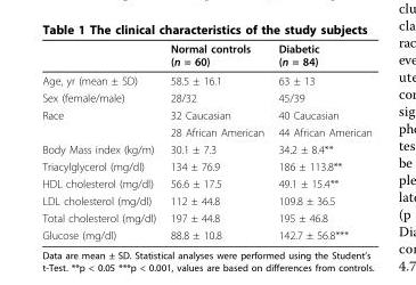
<table><thead><tr><td></td><td>Normal controls (n = 60)</td><td>Diabetic (n = 84)</td></tr></thead><tbody><tr><td>Age, yr (mean ± SD)</td><td>58.5 ± 16.1</td><td>63 ± 13</td></tr><tr><td>Sex (female/male)</td><td>28/32</td><td>45/39</td></tr><tr><td rowspan="2">Race</td><td>32 Caucasian</td><td>40 Caucasian</td></tr><tr><td>28 African American</td><td>44 African American</td></tr><tr><td>Body Mass index (kg/m)</td><td>30.1 ± 7.3</td><td>34.2 ± 8.4**</td></tr><tr><td>Triacylglycerol (mg/dl)</td><td>134 ± 76.9</td><td>186 ± 113.8**</td></tr><tr><td>HDL cholesterol (mg/dl)</td><td>56.6 ± 17.5</td><td>49.1 ± 15.4**</td></tr><tr><td>LDL cholesterol (mg/dl)</td><td>112 ± 44.8</td><td>109.8 ± 36.5</td></tr><tr><td>Total cholesterol (mg/dl)</td><td>197 ± 44.8</td><td>195 ± 46.8</td></tr><tr><td>Glucose (mg/dl)</td><td>88.8 ± 10.8</td><td>142.7 ± 56.8***</td></tr></tbody></table>